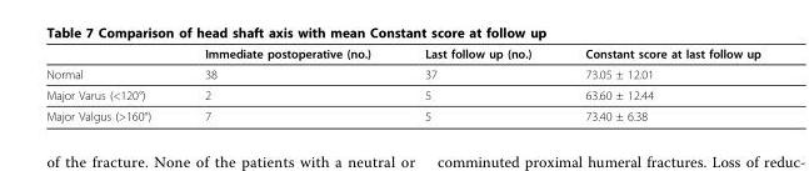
<table><thead><tr><td></td><td>Immediate postoperative (no.)</td><td>Last follow up (no.)</td><td>Constant score at last follow up</td></tr></thead><tbody><tr><td>Normal</td><td>38</td><td>37</td><td>73.05 ± 12.01</td></tr><tr><td>Major Varus (&lt;120°)</td><td>2</td><td>5</td><td>63.60 ± 12.44</td></tr><tr><td>Major Valgus (&gt;160°)</td><td>7</td><td>5</td><td>73.40 ± 6.38</td></tr></tbody></table>